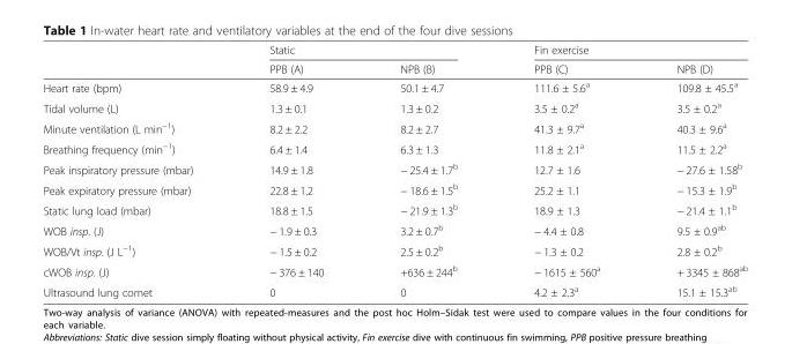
<table><thead><tr><td rowspan="2"></td><td colspan="2">Static</td><td colspan="2">Fin exercise</td></tr><tr><td>PPB (A)</td><td>NPB (B)</td><td>PPB (C)</td><td>NPB (D)</td></tr></thead><tbody><tr><td>Heart rate (bpm)</td><td>58.9 ± 4.9</td><td>50.1 ± 4.7</td><td>111.6 ± 5.6<sup>a</sup></td><td>109.8 ± 45.5<sup>a</sup></td></tr><tr><td>Tidal volume (L)</td><td>1.3 ± 0.1</td><td>1.3 ± 0.2</td><td>3.5 ± 0.2<sup>a</sup></td><td>3.5 ± 0.2<sup>a</sup></td></tr><tr><td>Minute ventilation (L min<sup>−1</sup>)</td><td>8.2 ± 2.2</td><td>8.2 ± 2.7</td><td>41.3 ± 9.7<sup>a</sup></td><td>40.3 ± 9.6<sup>a</sup></td></tr><tr><td>Breathing frequency (min<sup>−1</sup>)</td><td>6.4 ± 1.4</td><td>6.3 ± 1.3</td><td>11.8 ± 2.1<sup>a</sup></td><td>11.5 ± 2.2<sup>a</sup></td></tr><tr><td>Peak inspiratory pressure (mbar)</td><td>14.9 ± 1.8</td><td>− 25.4 ± 1.7<sup>b</sup></td><td>12.7 ± 1.6</td><td>− 27.6 ± 1.58<sup>b</sup></td></tr><tr><td>Peak expiratory pressure (mbar)</td><td>22.8 ± 1.2</td><td>− 18.6 ± 1.5<sup>b</sup></td><td>25.2 ± 1.1</td><td>− 15.3 ± 1.9<sup>b</sup></td></tr><tr><td>Static lung load (mbar)</td><td>18.8 ± 1.5</td><td>− 21.9 ± 1.3<sup>b</sup></td><td>18.9 ± 1.3</td><td>− 21.4 ± 1.1<sup>b</sup></td></tr><tr><td>WOB insp. (J)</td><td>− 1.9 ± 0.3</td><td>3.2 ± 0.7<sup>b</sup></td><td>− 4.4 ± 0.8</td><td>9.5 ± 0.9<sup>ab</sup></td></tr><tr><td>WOB/Vt insp. (J L<sup>−1</sup>)</td><td>− 1.5 ± 0.2</td><td>2.5 ± 0.2<sup>b</sup></td><td>− 1.3 ± 0.2</td><td>2.8 ± 0.2<sup>b</sup></td></tr><tr><td>cWOB insp. (J)</td><td>− 376 ± 140</td><td>+636 ± 244<sup>b</sup></td><td>− 1615 ± 560<sup>a</sup></td><td>+ 3345 ± 868<sup>ab</sup></td></tr><tr><td>Ultrasound lung comet</td><td>0</td><td>0</td><td>4.2 ± 2.3<sup>a</sup></td><td>15.1 ± 15.3<sup>ab</sup></td></tr></tbody></table>